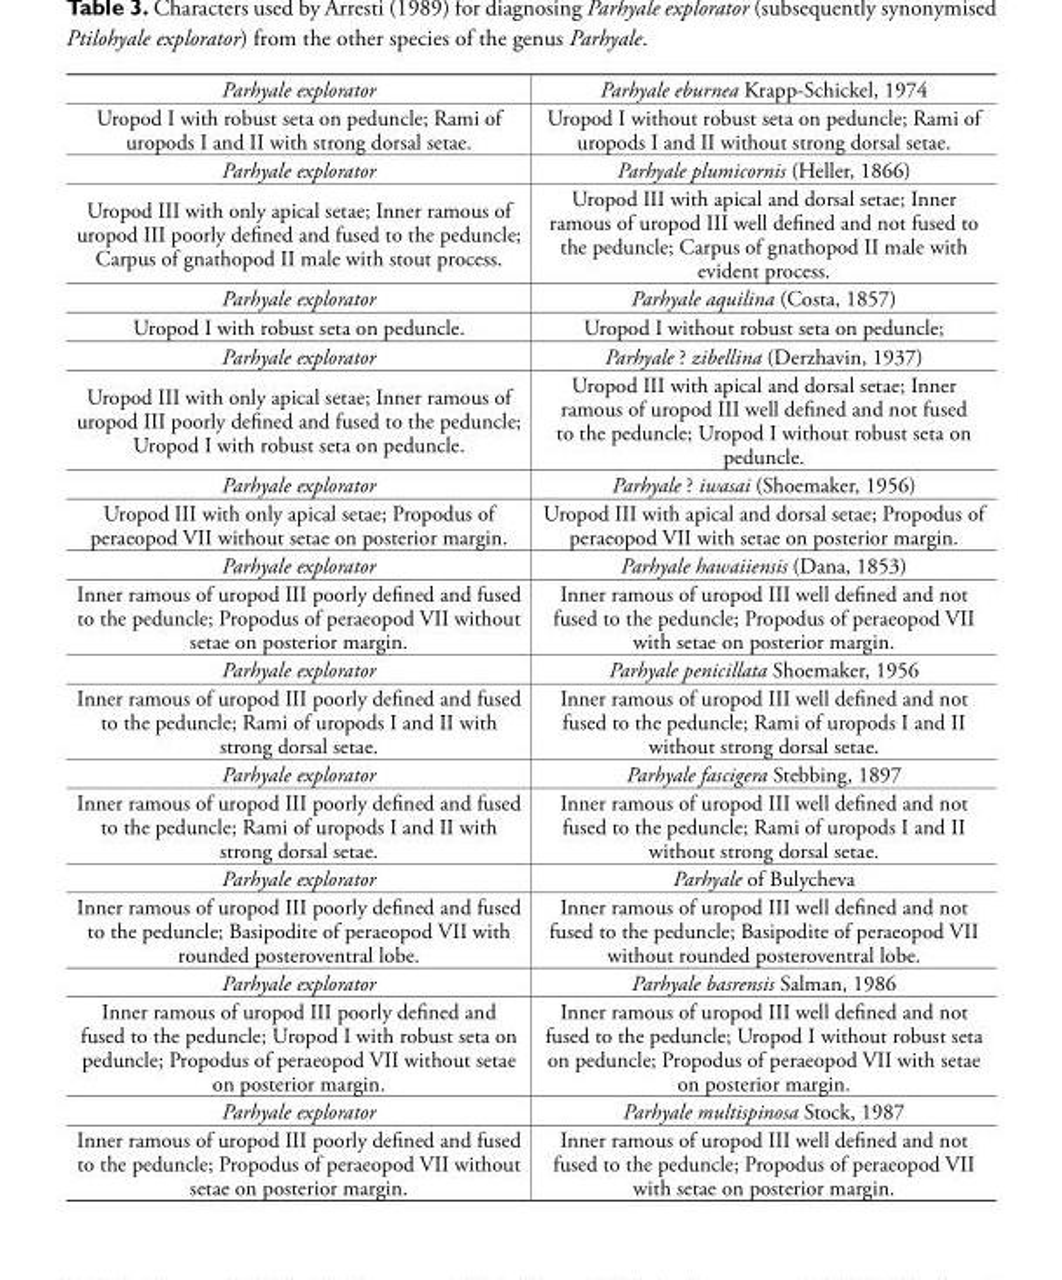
<table><tbody><tr><td>Parhyale explorator</td><td>Parhyale eburnea Krapp-Schickel, 1974</td></tr><tr><td>Uropod I with robust seta on peduncle; Rami of uropods I and II with strong dorsal setae.</td><td>Uropod I without robust seta on peduncle; Rami of uropods I and II without strong dorsal setae.</td></tr><tr><td>Parhyale explorator</td><td>Parhyale plumicornis (Heller, 1866)</td></tr><tr><td>Uropod III with only apical setae; Inner ramous of uropod III poorly defined and fused to the peduncle; Carpus of gnathopod II male with stout process.</td><td>Uropod III with apical and dorsal setae; Inner ramous of uropod III well defined and not fused to the peduncle; Carpus of gnathopod II male with evident process.</td></tr><tr><td>Parhyale explorator</td><td>Parhyale aquilina (Costa, 1857)</td></tr><tr><td>Uropod I with robust seta on peduncle.</td><td>Uropod I without robust seta on peduncle;</td></tr><tr><td>Parhyale explorator</td><td>Parhyale ? zibellina (Derzhavin, 1937)</td></tr><tr><td>Uropod III with only apical setae; Inner ramous of uropod III poorly defined and fused to the peduncle; Uropod I with robust seta on peduncle.</td><td>Uropod III with apical and dorsal setae; Inner ramous of uropod III well defined and not fused to the peduncle; Uropod I without robust seta on peduncle.</td></tr><tr><td>Parhyale explorator</td><td>Parhyale ? iwasai (Shoemaker, 1956)</td></tr><tr><td>Uropod III with only apical setae; Propodus of peraeopod VII without setae on posterior margin.</td><td>Uropod III with apical and dorsal setae; Propodus of peraeopod VII with setae on posterior margin.</td></tr><tr><td>Parhyale explorator</td><td>Parhyale hawaiiensis (Dana, 1853)</td></tr><tr><td>Inner ramous of uropod III poorly defined and fused to the peduncle; Propodus of peraeopod VII without setae on posterior margin.</td><td>Inner ramous of uropod III well defined and not fused to the peduncle; Propodus of peraeopod VII with setae on posterior margin.</td></tr><tr><td>Parhyale explorator</td><td>Parhyale penicillata Shoemaker, 1956</td></tr><tr><td>Inner ramous of uropod III poorly defined and fused to the peduncle; Rami of uropods I and II with strong dorsal setae.</td><td>Inner ramous of uropod III well defined and not fused to the peduncle; Rami of uropods I and II without strong dorsal setae.</td></tr><tr><td>Parhyale explorator</td><td>Parhyale fascigera Stebbing, 1897</td></tr><tr><td>Inner ramous of uropod III poorly defined and fused to the peduncle; Rami of uropods I and II with strong dorsal setae.</td><td>Inner ramous of uropod III well defined and not fused to the peduncle; Rami of uropods I and II without strong dorsal setae.</td></tr><tr><td>Parhyale explorator</td><td>Parhyale of Bulycheva</td></tr><tr><td>Inner ramous of uropod III poorly defined and fused to the peduncle; Basipodite of peraeopod VII with rounded posteroventral lobe.</td><td>Inner ramous of uropod III well defined and not fused to the peduncle; Basipodite of peraeopod VII without rounded posteroventral lobe.</td></tr><tr><td>Parhyale explorator</td><td>Parhyale basrensis Salman, 1986</td></tr><tr><td>Inner ramous of uropod III poorly defined and fused to the peduncle; Uropod I with robust seta on peduncle; Propodus of peraeopod VII without setae on posterior margin.</td><td>Inner ramous of uropod III well defined and not fused to the peduncle; Uropod I without robust seta on peduncle; Propodus of peraeopod VII with setae on posterior margin.</td></tr><tr><td>Parhyale explorator</td><td>Parhyale multispinosa Stock, 1987</td></tr><tr><td>Inner ramous of uropod III poorly defined and fused to the peduncle; Propodus of peraeopod VII without setae on posterior margin.</td><td>Inner ramous of uropod III well defined and not fused to the peduncle; Propodus of peraeopod VII with setae on posterior margin.</td></tr></tbody></table>